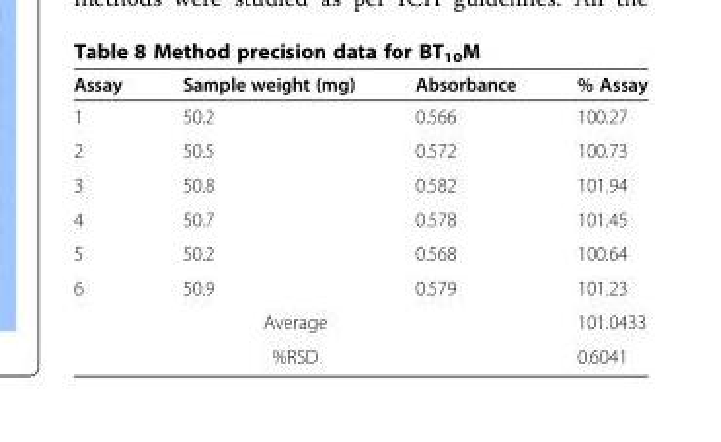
<table><thead><tr><td>Assay</td><td>Sample weight (mg)</td><td>Absorbance</td><td>% Assay</td></tr></thead><tbody><tr><td>1</td><td>50.2</td><td>0.566</td><td>100.27</td></tr><tr><td>2</td><td>50.5</td><td>0.572</td><td>100.73</td></tr><tr><td>3</td><td>50.8</td><td>0.582</td><td>101.94</td></tr><tr><td>4</td><td>50.7</td><td>0.578</td><td>101.45</td></tr><tr><td>5</td><td>50.2</td><td>0.568</td><td>100.64</td></tr><tr><td>6</td><td>50.9</td><td>0.579</td><td>101.23</td></tr><tr><td colspan="3">Average</td><td>101.0433</td></tr><tr><td colspan="3">%RSD</td><td>0.6041</td></tr></tbody></table>